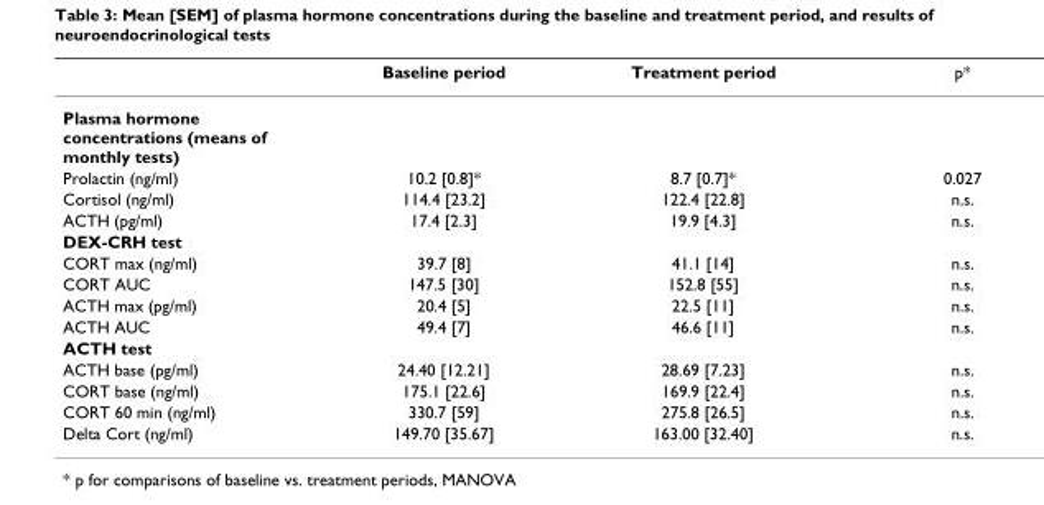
<table><thead><tr><td></td><td>Baseline period</td><td>Treatment period</td><td>p*</td></tr></thead><tbody><tr><td colspan="4">Plasma hormone concentrations (means of monthly tests)</td></tr><tr><td>Prolactin (ng/ml)</td><td>10.2 [0.8]*</td><td>8.7 [0.7]*</td><td>0.027</td></tr><tr><td>Cortisol (ng/ml)</td><td>114.4 [23.2]</td><td>122.4 [22.8]</td><td>n.s.</td></tr><tr><td>ACTH (pg/ml)</td><td>17.4 [2.3]</td><td>19.9 [4.3]</td><td>n.s.</td></tr><tr><td colspan="4">DEX-CRH test</td></tr><tr><td>CORT max (ng/ml)</td><td>39.7 [8]</td><td>41.1 [14]</td><td>n.s.</td></tr><tr><td>CORT AUC</td><td>147.5 [30]</td><td>152.8 [55]</td><td>n.s.</td></tr><tr><td>ACTH max (pg/ml)</td><td>20.4 [5]</td><td>22.5 [11]</td><td>n.s.</td></tr><tr><td>ACTH AUC</td><td>49.4 [7]</td><td>46.6 [11]</td><td>n.s.</td></tr><tr><td colspan="4">ACTH test</td></tr><tr><td>ACTH base (pg/ml)</td><td>24.40 [12.21]</td><td>28.69 [7.23]</td><td>n.s.</td></tr><tr><td>CORT base (ng/ml)</td><td>175.1 [22.6]</td><td>169.9 [22.4]</td><td>n.s.</td></tr><tr><td>CORT 60 min (ng/ml)</td><td>330.7 [59]</td><td>275.8 [26.5]</td><td>n.s.</td></tr><tr><td>Delta Cort (ng/ml)</td><td>149.70 [35.67]</td><td>163.00 [32.40]</td><td>n.s.</td></tr></tbody></table>